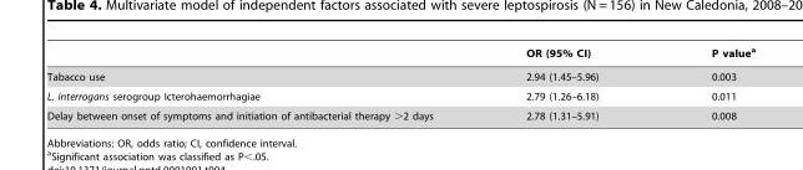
<table><thead><tr><td></td><td>OR (95% CI)</td><td>P value<sup>a</sup></td></tr></thead><tbody><tr><td>Tabacco use</td><td>2.94 (1.45–5.96)</td><td>0.003</td></tr><tr><td>L. interrogans serogroup Icterohaemorrhagiae</td><td>2.79 (1.26–6.18)</td><td>0.011</td></tr><tr><td>Delay between onset of symptoms and initiation of antibacterial therapy &gt;2 days</td><td>2.78 (1.31–5.91)</td><td>0.008</td></tr></tbody></table>